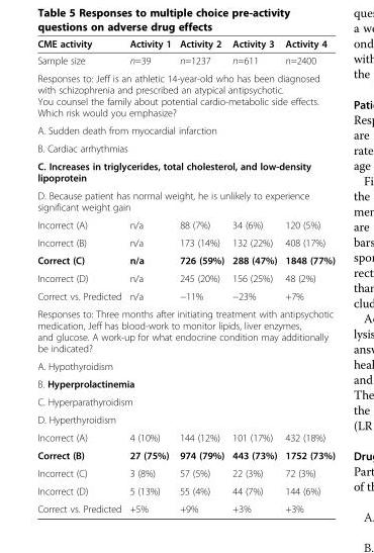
<table><thead><tr><td>CME activity</td><td>Activity 1</td><td>Activity 2</td><td>Activity 3</td><td>Activity 4</td></tr></thead><tbody><tr><td>Sample size</td><td>n=39</td><td>n=1237</td><td>n=611</td><td>n=2400</td></tr><tr><td colspan="5">Responses to: Jeff is an athletic 14-year-old who has been diagnosed with schizophrenia and prescribed an atypical antipsychotic. You counsel the family about potential cardio-metabolic side effects. Which risk would you emphasize?</td></tr><tr><td colspan="5">A. Sudden death from myocardial infarction</td></tr><tr><td colspan="5">B. Cardiac arrhythmias</td></tr><tr><td colspan="5">C. Increases in triglycerides, total cholesterol, and low-density lipoprotein</td></tr><tr><td colspan="5">D. Because patient has normal weight, he is unlikely to experience significant weight gain</td></tr><tr><td>Incorrect (A)</td><td>n/a</td><td>88 (7%)</td><td>34 (6%)</td><td>120 (5%)</td></tr><tr><td>Incorrect (B)</td><td>n/a</td><td>173 (14%)</td><td>132 (22%)</td><td>408 (17%)</td></tr><tr><td>Correct (C)</td><td>n/a</td><td>726 (59%)</td><td>288 (47%)</td><td>1848 (77%)</td></tr><tr><td>Incorrect (D)</td><td>n/a</td><td>245 (20%)</td><td>156 (25%)</td><td>48 (2%)</td></tr><tr><td>Correct vs. Predicted</td><td>n/a</td><td>−11%</td><td>−23%</td><td>+7%</td></tr><tr><td colspan="5">Responses to: Three months after initiating treatment with antipsychotic medication, Jeff has blood-work to monitor lipids, liver enzymes, and glucose. A work-up for what endocrine condition may additionally be indicated?</td></tr><tr><td colspan="5">A. Hypothyroidism</td></tr><tr><td colspan="5">B. Hyperprolactinemia</td></tr><tr><td colspan="5">C. Hyperparathyroidism</td></tr><tr><td colspan="5">D. Hyperthyroidism</td></tr><tr><td>Incorrect (A)</td><td>4 (10%)</td><td>144 (12%)</td><td>101 (17%)</td><td>432 (18%)</td></tr><tr><td>Correct (B)</td><td>27 (75%)</td><td>974 (79%)</td><td>443 (73%)</td><td>1752 (73%)</td></tr><tr><td>Incorrect (C)</td><td>3 (8%)</td><td>57 (5%)</td><td>22 (3%)</td><td>72 (3%)</td></tr><tr><td>Incorrect (D)</td><td>5 (13%)</td><td>55 (4%)</td><td>44 (7%)</td><td>144 (6%)</td></tr><tr><td>Correct vs. Predicted</td><td>+5%</td><td>+9%</td><td>+3%</td><td>+3%</td></tr></tbody></table>